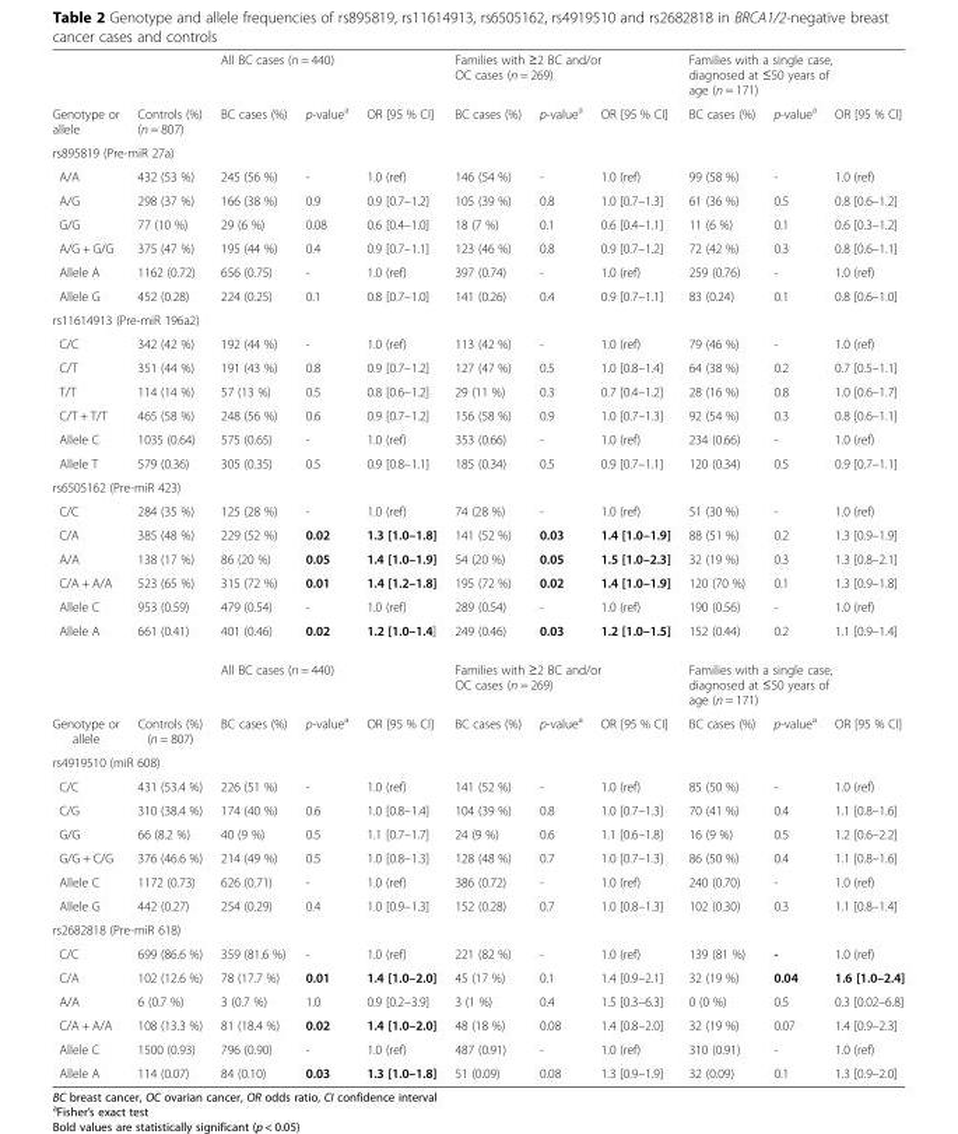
<table><thead><tr><td rowspan="2">Genotype or allele</td><td rowspan="2">Controls (%) (n = 807)</td><td colspan="3">All BC cases (n = 440)</td><td colspan="3">Families with ≥2 BC and/or OC cases (n = 269)</td><td colspan="3">Families with a single case, diagnosed at ≤50 years of age (n = 171)</td></tr><tr><td>BC cases (%)</td><td>p-value<sup>a</sup></td><td>OR [95 % CI]</td><td>BC cases (%)</td><td>p-value<sup>a</sup></td><td>OR [95 % CI]</td><td>BC cases (%)</td><td>p-value<sup>a</sup></td><td>OR [95 % CI]</td></tr></thead><tbody><tr><td colspan="11">rs895819 (Pre-miR 27a)</td></tr><tr><td>A/A</td><td>432 (53 %)</td><td>245 (56 %)</td><td>-</td><td>1.0 (ref)</td><td>146 (54 %)</td><td>-</td><td>1.0 (ref)</td><td>99 (58 %)</td><td>-</td><td>1.0 (ref)</td></tr><tr><td>A/G</td><td>298 (37 %)</td><td>166 (38 %)</td><td>0.9</td><td>0.9 [0.7–1.2]</td><td>105 (39 %)</td><td>0.8</td><td>1.0 [0.7–1.3]</td><td>61 (36 %)</td><td>0.5</td><td>0.8 [0.6–1.2]</td></tr><tr><td>G/G</td><td>77 (10 %)</td><td>29 (6 %)</td><td>0.08</td><td>0.6 [0.4–1.0]</td><td>18 (7 %)</td><td>0.1</td><td>0.6 [0.4–1.1]</td><td>11 (6 %)</td><td>0.1</td><td>0.6 [0.3–1.2]</td></tr><tr><td>A/G + G/G</td><td>375 (47 %)</td><td>195 (44 %)</td><td>0.4</td><td>0.9 [0.7–1.1]</td><td>123 (46 %)</td><td>0.8</td><td>0.9 [0.7–1.2]</td><td>72 (42 %)</td><td>0.3</td><td>0.8 [0.6–1.1]</td></tr><tr><td>Allele A</td><td>1162 (0.72)</td><td>656 (0.75)</td><td>-</td><td>1.0 (ref)</td><td>397 (0.74)</td><td>-</td><td>1.0 (ref)</td><td>259 (0.76)</td><td>-</td><td>1.0 (ref)</td></tr><tr><td>Allele G</td><td>452 (0.28)</td><td>224 (0.25)</td><td>0.1</td><td>0.8 [0.7–1.0]</td><td>141 (0.26)</td><td>0.4</td><td>0.9 [0.7–1.1]</td><td>83 (0.24)</td><td>0.1</td><td>0.8 [0.6–1.0]</td></tr><tr><td colspan="11">rs11614913 (Pre-miR 196a2)</td></tr><tr><td>C/C</td><td>342 (42 %)</td><td>192 (44 %)</td><td>-</td><td>1.0 (ref)</td><td>113 (42 %)</td><td>-</td><td>1.0 (ref)</td><td>79 (46 %)</td><td>-</td><td>1.0 (ref)</td></tr><tr><td>C/T</td><td>351 (44 %)</td><td>191 (43 %)</td><td>0.8</td><td>0.9 [0.7–1.2]</td><td>127 (47 %)</td><td>0.5</td><td>1.0 [0.8–1.4]</td><td>64 (38 %)</td><td>0.2</td><td>0.7 [0.5–1.1]</td></tr><tr><td>T/T</td><td>114 (14 %)</td><td>57 (13 %)</td><td>0.5</td><td>0.8 [0.6–1.2]</td><td>29 (11 %)</td><td>0.3</td><td>0.7 [0.4–1.2]</td><td>28 (16 %)</td><td>0.8</td><td>1.0 [0.6–1.7]</td></tr><tr><td>C/T + T/T</td><td>465 (58 %)</td><td>248 (56 %)</td><td>0.6</td><td>0.9 [0.7–1.2]</td><td>156 (58 %)</td><td>0.9</td><td>1.0 [0.7–1.3]</td><td>92 (54 %)</td><td>0.3</td><td>0.8 [0.6–1.1]</td></tr><tr><td>Allele C</td><td>1035 (0.64)</td><td>575 (0.65)</td><td>-</td><td>1.0 (ref)</td><td>353 (0.66)</td><td>-</td><td>1.0 (ref)</td><td>234 (0.66)</td><td>-</td><td>1.0 (ref)</td></tr><tr><td>Allele T</td><td>579 (0.36)</td><td>305 (0.35)</td><td>0.5</td><td>0.9 [0.8–1.1]</td><td>185 (0.34)</td><td>0.5</td><td>0.9 [0.7–1.1]</td><td>120 (0.34)</td><td>0.5</td><td>0.9 [0.7–1.1]</td></tr><tr><td colspan="11">rs6505162 (Pre-miR 423)</td></tr><tr><td>C/C</td><td>284 (35 %)</td><td>125 (28 %)</td><td>-</td><td>1.0 (ref)</td><td>74 (28 %)</td><td>-</td><td>1.0 (ref)</td><td>51 (30 %)</td><td>-</td><td>1.0 (ref)</td></tr><tr><td>C/A</td><td>385 (48 %)</td><td>229 (52 %)</td><td>0.02</td><td>1.3 [1.0–1.8]</td><td>141 (52 %)</td><td>0.03</td><td>1.4 [1.0–1.9]</td><td>88 (51 %)</td><td>0.2</td><td>1.3 [0.9–1.9]</td></tr><tr><td>A/A</td><td>138 (17 %)</td><td>86 (20 %)</td><td>0.05</td><td>1.4 [1.0–1.9]</td><td>54 (20 %)</td><td>0.05</td><td>1.5 [1.0–2.3]</td><td>32 (19 %)</td><td>0.3</td><td>1.3 [0.8–2.1]</td></tr><tr><td>C/A + A/A</td><td>523 (65 %)</td><td>315 (72 %)</td><td>0.01</td><td>1.4 [1.2–1.8]</td><td>195 (72 %)</td><td>0.02</td><td>1.4 [1.0–1.9]</td><td>120 (70 %)</td><td>0.1</td><td>1.3 [0.9–1.8]</td></tr><tr><td>Allele C</td><td>953 (0.59)</td><td>479 (0.54)</td><td>-</td><td>1.0 (ref)</td><td>289 (0.54)</td><td>-</td><td>1.0 (ref)</td><td>190 (0.56)</td><td>-</td><td>1.0 (ref)</td></tr><tr><td rowspan="2">Allele A</td><td>661 (0.41)</td><td>401 (0.46)</td><td>0.02</td><td>1.2 [1.0–1.4]</td><td>249 (0.46)</td><td>0.03</td><td>1.2 [1.0–1.5]</td><td>152 (0.44)</td><td>0.2</td><td>1.1 [0.9–1.4]</td></tr><tr><td></td><td colspan="3">All BC cases (n = 440)</td><td colspan="3">Families with ≥2 BC and/or OC cases (n = 269)</td><td colspan="3">Families with a single case, diagnosed at ≤50 years of age (n = 171)</td></tr><tr><td>Genotype or allele</td><td>Controls (%) (n = 807)</td><td>BC cases (%)</td><td>p-value<sup>a</sup></td><td>OR [95 % CI]</td><td>BC cases (%)</td><td>p-value<sup>a</sup></td><td>OR [95 % CI]</td><td>BC cases (%)</td><td>p-value<sup>a</sup></td><td>OR [95 % CI]</td></tr><tr><td colspan="11">rs4919510 (miR 608)</td></tr><tr><td>C/C</td><td>431 (53.4 %)</td><td>226 (51 %)</td><td>-</td><td>1.0 (ref)</td><td>141 (52 %)</td><td>-</td><td>1.0 (ref)</td><td>85 (50 %)</td><td>-</td><td>1.0 (ref)</td></tr><tr><td>C/G</td><td>310 (38.4 %)</td><td>174 (40 %)</td><td>0.6</td><td>1.0 [0.8–1.4]</td><td>104 (39 %)</td><td>0.8</td><td>1.0 [0.7–1.3]</td><td>70 (41 %)</td><td>0.4</td><td>1.1 [0.8–1.6]</td></tr><tr><td>G/G</td><td>66 (8.2 %)</td><td>40 (9 %)</td><td>0.5</td><td>1.1 [0.7–1.7]</td><td>24 (9 %)</td><td>0.6</td><td>1.1 [0.6–1.8]</td><td>16 (9 %)</td><td>0.5</td><td>1.2 [0.6–2.2]</td></tr><tr><td>G/G + C/G</td><td>376 (46.6 %)</td><td>214 (49 %)</td><td>0.5</td><td>1.0 [0.8–1.3]</td><td>128 (48 %)</td><td>0.7</td><td>1.0 [0.7–1.3]</td><td>86 (50 %)</td><td>0.4</td><td>1.1 [0.8–1.6]</td></tr><tr><td>Allele C</td><td>1172 (0.73)</td><td>626 (0.71)</td><td>-</td><td>1.0 (ref)</td><td>386 (0.72)</td><td>-</td><td>1.0 (ref)</td><td>240 (0.70)</td><td>-</td><td>1.0 (ref)</td></tr><tr><td>Allele G</td><td>442 (0.27)</td><td>254 (0.29)</td><td>0.4</td><td>1.0 [0.9–1.3]</td><td>152 (0.28)</td><td>0.7</td><td>1.0 [0.8–1.3]</td><td>102 (0.30)</td><td>0.3</td><td>1.1 [0.8–1.4]</td></tr><tr><td colspan="11">rs2682818 (Pre-miR 618)</td></tr><tr><td>C/C</td><td>699 (86.6 %)</td><td>359 (81.6 %)</td><td>-</td><td>1.0 (ref)</td><td>221 (82 %)</td><td>-</td><td>1.0 (ref)</td><td>139 (81 %)</td><td>-</td><td>1.0 (ref)</td></tr><tr><td>C/A</td><td>102 (12.6 %)</td><td>78 (17.7 %)</td><td>0.01</td><td>1.4 [1.0–2.0]</td><td>45 (17 %)</td><td>0.1</td><td>1.4 [0.9–2.1]</td><td>32 (19 %)</td><td>0.04</td><td>1.6 [1.0–2.4]</td></tr><tr><td>A/A</td><td>6 (0.7 %)</td><td>3 (0.7 %)</td><td>1.0</td><td>0.9 [0.2–3.9]</td><td>3 (1 %)</td><td>0.4</td><td>1.5 [0.3–6.3]</td><td>0 (0 %)</td><td>0.5</td><td>0.3 [0.02–6.8]</td></tr><tr><td>C/A + A/A</td><td>108 (13.3 %)</td><td>81 (18.4 %)</td><td>0.02</td><td>1.4 [1.0–2.0]</td><td>48 (18 %)</td><td>0.08</td><td>1.4 [0.8–2.0]</td><td>32 (19 %)</td><td>0.07</td><td>1.4 [0.9–2.3]</td></tr><tr><td>Allele C</td><td>1500 (0.93)</td><td>796 (0.90)</td><td>-</td><td>1.0 (ref)</td><td>487 (0.91)</td><td>-</td><td>1.0 (ref)</td><td>310 (0.91)</td><td>-</td><td>1.0 (ref)</td></tr><tr><td>Allele A</td><td>114 (0.07)</td><td>84 (0.10)</td><td>0.03</td><td>1.3 [1.0–1.8]</td><td>51 (0.09)</td><td>0.08</td><td>1.3 [0.9–1.9]</td><td>32 (0.09)</td><td>0.1</td><td>1.3 [0.9–2.0]</td></tr></tbody></table>